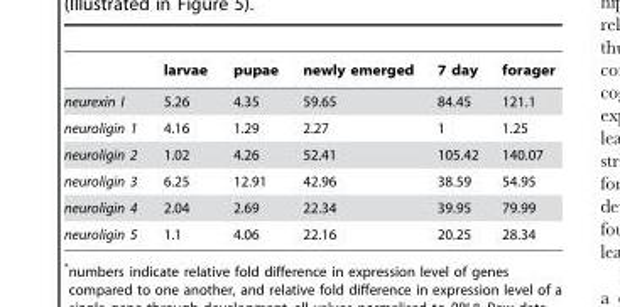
<table><thead><tr><td></td><td>larvae</td><td>pupae</td><td>newly emerged</td><td>7 day</td><td>forager</td></tr></thead><tbody><tr><td>neurexin I</td><td>5.26</td><td>4.35</td><td>59.65</td><td>84.45</td><td>121.1</td></tr><tr><td>neuroligin 1</td><td>4.16</td><td>1.29</td><td>2.27</td><td>1</td><td>1.25</td></tr><tr><td>neuroligin 2</td><td>1.02</td><td>4.26</td><td>52.41</td><td>105.42</td><td>140.07</td></tr><tr><td>neuroligin 3</td><td>6.25</td><td>12.91</td><td>42.96</td><td>38.59</td><td>54.95</td></tr><tr><td>neuroligin 4</td><td>2.04</td><td>2.69</td><td>22.34</td><td>39.95</td><td>79.99</td></tr><tr><td>neuroligin 5</td><td>1.1</td><td>4.06</td><td>22.16</td><td>20.25</td><td>28.34</td></tr></tbody></table>